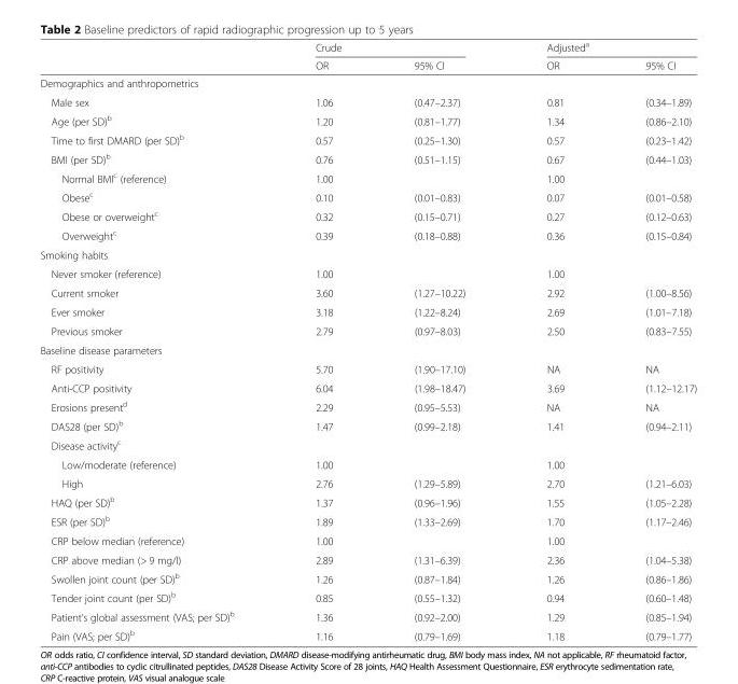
<table><thead><tr><td rowspan="2"></td><td colspan="2">Crude</td><td colspan="2">Adjusted<sup>a</sup></td></tr><tr><td>OR</td><td>95% CI</td><td>OR</td><td>95% CI</td></tr></thead><tbody><tr><td colspan="5">Demographics and anthropometrics</td></tr><tr><td>Male sex</td><td>1.06</td><td>(0.47–2.37)</td><td>0.81</td><td>(0.34–1.89)</td></tr><tr><td>Age (per SD)<sup>b</sup></td><td>1.20</td><td>(0.81–1.77)</td><td>1.34</td><td>(0.86–2.10)</td></tr><tr><td>Time to first DMARD (per SD)<sup>b</sup></td><td>0.57</td><td>(0.25–1.30)</td><td>0.57</td><td>(0.23–1.42)</td></tr><tr><td>BMI (per SD)<sup>b</sup></td><td>0.76</td><td>(0.51–1.15)</td><td>0.67</td><td>(0.44–1.03)</td></tr><tr><td>Normal BMI<sup>c</sup> (reference)</td><td>1.00</td><td></td><td>1.00</td><td></td></tr><tr><td>Obese<sup>c</sup></td><td>0.10</td><td>(0.01–0.83)</td><td>0.07</td><td>(0.01–0.58)</td></tr><tr><td>Obese or overweight<sup>c</sup></td><td>0.32</td><td>(0.15–0.71)</td><td>0.27</td><td>(0.12–0.63)</td></tr><tr><td>Overweight<sup>c</sup></td><td>0.39</td><td>(0.18–0.88)</td><td>0.36</td><td>(0.15–0.84)</td></tr><tr><td colspan="5">Smoking habits</td></tr><tr><td>Never smoker (reference)</td><td>1.00</td><td></td><td>1.00</td><td></td></tr><tr><td>Current smoker</td><td>3.60</td><td>(1.27–10.22)</td><td>2.92</td><td>(1.00–8.56)</td></tr><tr><td>Ever smoker</td><td>3.18</td><td>(1.22–8.24)</td><td>2.69</td><td>(1.01–7.18)</td></tr><tr><td>Previous smoker</td><td>2.79</td><td>(0.97–8.03)</td><td>2.50</td><td>(0.83–7.55)</td></tr><tr><td colspan="5">Baseline disease parameters</td></tr><tr><td>RF positivity</td><td>5.70</td><td>(1.90–17.10)</td><td>NA</td><td>NA</td></tr><tr><td>Anti-CCP positivity</td><td>6.04</td><td>(1.98–18.47)</td><td>3.69</td><td>(1.12–12.17)</td></tr><tr><td>Erosions present<sup>d</sup></td><td>2.29</td><td>(0.95–5.53)</td><td>NA</td><td>NA</td></tr><tr><td>DAS28 (per SD)<sup>b</sup></td><td>1.47</td><td>(0.99–2.18)</td><td>1.41</td><td>(0.94–2.11)</td></tr><tr><td colspan="5">Disease activity<sup>c</sup></td></tr><tr><td>Low/moderate (reference)</td><td>1.00</td><td></td><td>1.00</td><td></td></tr><tr><td>High</td><td>2.76</td><td>(1.29–5.89)</td><td>2.70</td><td>(1.21–6.03)</td></tr><tr><td>HAQ (per SD)<sup>b</sup></td><td>1.37</td><td>(0.96–1.96)</td><td>1.55</td><td>(1.05–2.28)</td></tr><tr><td>ESR (per SD)<sup>b</sup></td><td>1.89</td><td>(1.33–2.69)</td><td>1.70</td><td>(1.17–2.46)</td></tr><tr><td>CRP below median (reference)</td><td>1.00</td><td></td><td>1.00</td><td></td></tr><tr><td>CRP above median (&gt; 9 mg/l)</td><td>2.89</td><td>(1.31–6.39)</td><td>2.36</td><td>(1.04–5.38)</td></tr><tr><td>Swollen joint count (per SD)<sup>b</sup></td><td>1.26</td><td>(0.87–1.84)</td><td>1.26</td><td>(0.86–1.86)</td></tr><tr><td>Tender joint count (per SD)<sup>b</sup></td><td>0.85</td><td>(0.55–1.32)</td><td>0.94</td><td>(0.60–1.48)</td></tr><tr><td>Patient’s global assessment (VAS; per SD)<sup>b</sup></td><td>1.36</td><td>(0.92–2.00)</td><td>1.29</td><td>(0.85–1.94)</td></tr><tr><td>Pain (VAS; per SD)<sup>b</sup></td><td>1.16</td><td>(0.79–1.69)</td><td>1.18</td><td>(0.79–1.77)</td></tr></tbody></table>